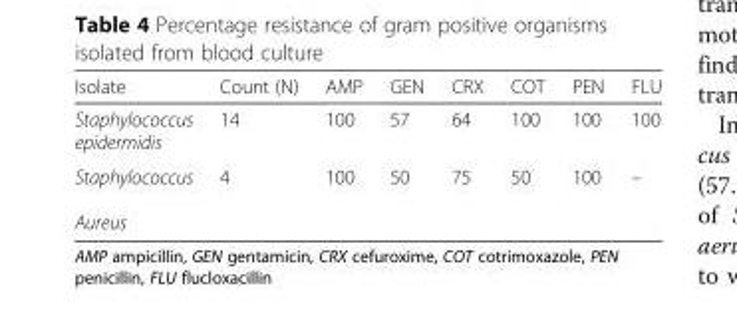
<table><thead><tr><td>Isolate</td><td>Count (N)</td><td>AMP</td><td>GEN</td><td>CRX</td><td>COT</td><td>PEN</td><td>FLU</td></tr></thead><tbody><tr><td>Staphylococcus epidermidis</td><td>14</td><td>100</td><td>57</td><td>64</td><td>100</td><td>100</td><td>100</td></tr><tr><td>Staphylococcus Aureus</td><td>4</td><td>100</td><td>50</td><td>75</td><td>50</td><td>100</td><td>–</td></tr></tbody></table>